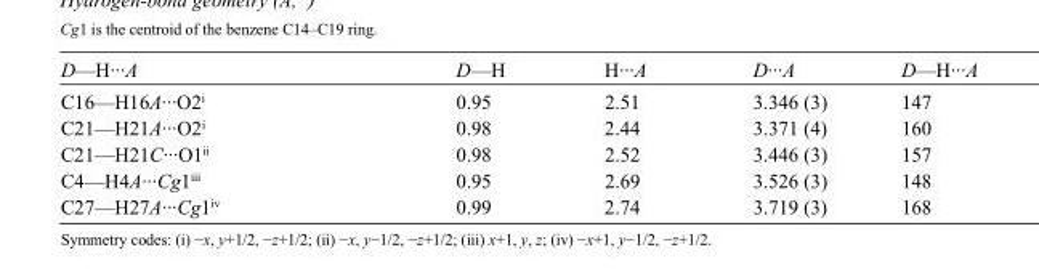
<table><tbody><tr><td>D—H···A</td><td>D—H</td><td>H···A</td><td>D···A</td><td>D—H···A</td></tr><tr><td>C16—H16A···O2<sup>i</sup></td><td>0.95</td><td>2.51</td><td>3.346 (3)</td><td>147</td></tr><tr><td>C21—H21A···O2<sup>i</sup></td><td>0.98</td><td>2.44</td><td>3.371 (4)</td><td>160</td></tr><tr><td>C21—H21C···O1<sup>ii</sup></td><td>0.98</td><td>2.52</td><td>3.446 (3)</td><td>157</td></tr><tr><td>C4—H4A···Cg1<sup>iii</sup></td><td>0.95</td><td>2.69</td><td>3.526 (3)</td><td>148</td></tr><tr><td>C27—H27A···Cg1<sup>iv</sup></td><td>0.99</td><td>2.74</td><td>3.719 (3)</td><td>168</td></tr></tbody></table>